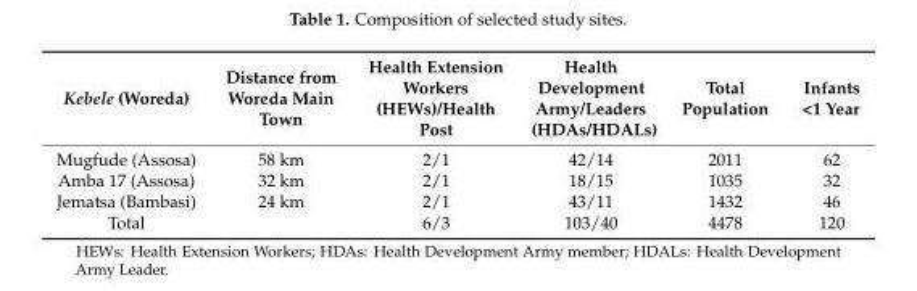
<table><thead><tr><td>Kebele (Woreda)</td><td>Distance from Woreda Main Town</td><td>Health Extension Workers (HEWs)/Health Post</td><td>Health Development Army/Leaders (HDAs/HDALs)</td><td>Total Population</td><td>Infants &lt;1 Year</td></tr></thead><tbody><tr><td>Mugfude (Assosa)</td><td>58 km</td><td>2/1</td><td>42/14</td><td>2011</td><td>62</td></tr><tr><td>Amba 17 (Assosa)</td><td>32 km</td><td>2/1</td><td>18/15</td><td>1035</td><td>32</td></tr><tr><td>Jematsa (Bambasi)</td><td>24 km</td><td>2/1</td><td>43/11</td><td>1432</td><td>46</td></tr><tr><td>Total</td><td></td><td>6/3</td><td>103/40</td><td>4478</td><td>120</td></tr></tbody></table>